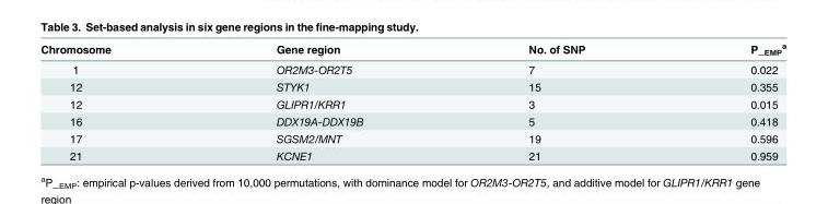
<table><thead><tr><td>Chromosome</td><td>Gene region</td><td>No. of SNP</td><td>P_EMP a</td></tr></thead><tbody><tr><td>1</td><td>OR2M3-OR2T5</td><td>7</td><td>0.022</td></tr><tr><td>12</td><td>STYK1</td><td>15</td><td>0.355</td></tr><tr><td>12</td><td>GLIPR1/KRR1</td><td>3</td><td>0.015</td></tr><tr><td>16</td><td>DDX19A-DDX19B</td><td>5</td><td>0.418</td></tr><tr><td>17</td><td>SGSM2/MNT</td><td>19</td><td>0.596</td></tr><tr><td>21</td><td>KCNE1</td><td>21</td><td>0.959</td></tr></tbody></table>